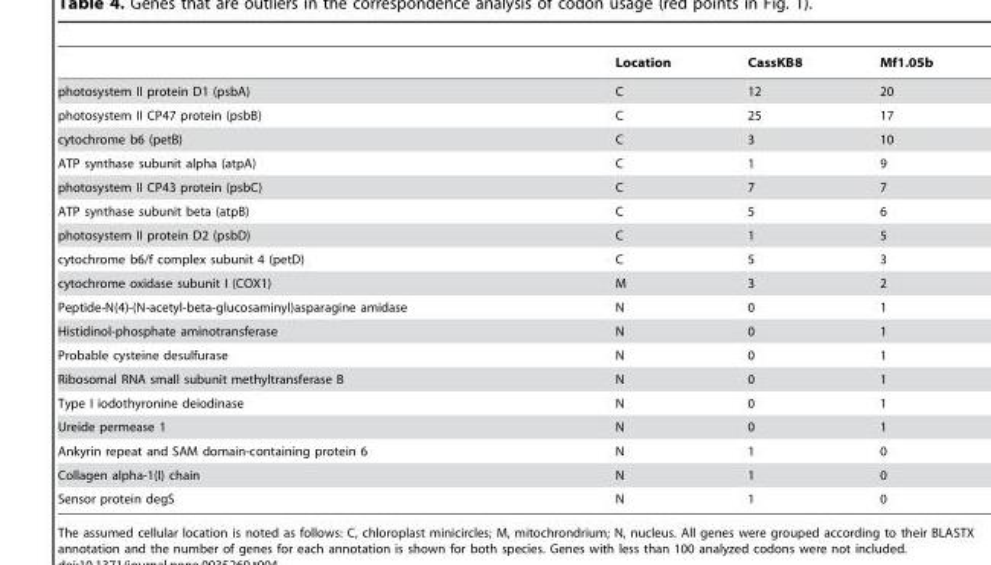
<table><thead><tr><td></td><td>Location</td><td>CassKB8</td><td>Mf1.05b</td></tr></thead><tbody><tr><td>photosystem II protein D1 (psbA)</td><td>C</td><td>12</td><td>20</td></tr><tr><td>photosystem II CP47 protein (psbB)</td><td>C</td><td>25</td><td>17</td></tr><tr><td>cytochrome b6 (petB)</td><td>C</td><td>3</td><td>10</td></tr><tr><td>ATP synthase subunit alpha (atpA)</td><td>C</td><td>1</td><td>9</td></tr><tr><td>photosystem II CP43 protein (psbC)</td><td>C</td><td>7</td><td>7</td></tr><tr><td>ATP synthase subunit beta (atpB)</td><td>C</td><td>5</td><td>6</td></tr><tr><td>photosystem II protein D2 (psbD)</td><td>C</td><td>1</td><td>5</td></tr><tr><td>cytochrome b6/f complex subunit 4 (petD)</td><td>C</td><td>5</td><td>3</td></tr><tr><td>cytochrome oxidase subunit I (COX1)</td><td>M</td><td>3</td><td>2</td></tr><tr><td>Peptide-N(4)-(N-acetyl-beta-glucosaminyl)asparagine amidase</td><td>N</td><td>0</td><td>1</td></tr><tr><td>Histidinol-phosphate aminotransferase</td><td>N</td><td>0</td><td>1</td></tr><tr><td>Probable cysteine desulfurase</td><td>N</td><td>0</td><td>1</td></tr><tr><td>Ribosomal RNA small subunit methyltransferase B</td><td>N</td><td>0</td><td>1</td></tr><tr><td>Type I iodothyronine deiodinase</td><td>N</td><td>0</td><td>1</td></tr><tr><td>Ureide permease 1</td><td>N</td><td>0</td><td>1</td></tr><tr><td>Ankyrin repeat and SAM domain-containing protein 6</td><td>N</td><td>1</td><td>0</td></tr><tr><td>Collagen alpha-1(I) chain</td><td>N</td><td>1</td><td>0</td></tr><tr><td>Sensor protein degS</td><td>N</td><td>1</td><td>0</td></tr></tbody></table>